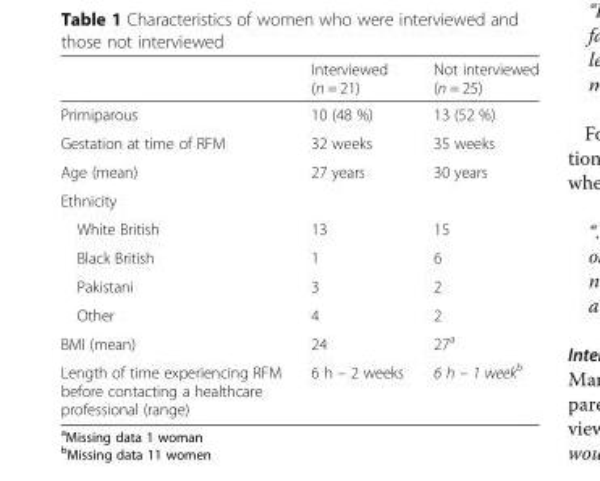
<table><thead><tr><td></td><td>Interviewed (n = 21)</td><td>Not interviewed (n = 25)</td></tr></thead><tbody><tr><td>Primiparous</td><td>10 (48 %)</td><td>13 (52 %)</td></tr><tr><td>Gestation at time of RFM</td><td>32 weeks</td><td>35 weeks</td></tr><tr><td>Age (mean)</td><td>27 years</td><td>30 years</td></tr><tr><td colspan="3">Ethnicity</td></tr><tr><td>White British</td><td>13</td><td>15</td></tr><tr><td>Black British</td><td>1</td><td>6</td></tr><tr><td>Pakistani</td><td>3</td><td>2</td></tr><tr><td>Other</td><td>4</td><td>2</td></tr><tr><td>BMI (mean)</td><td>24</td><td>27<sup>a</sup></td></tr><tr><td>Length of time experiencing RFM before contacting a healthcare professional (range)</td><td>6 h – 2 weeks</td><td>6 h – 1 week<sup>b</sup></td></tr></tbody></table>